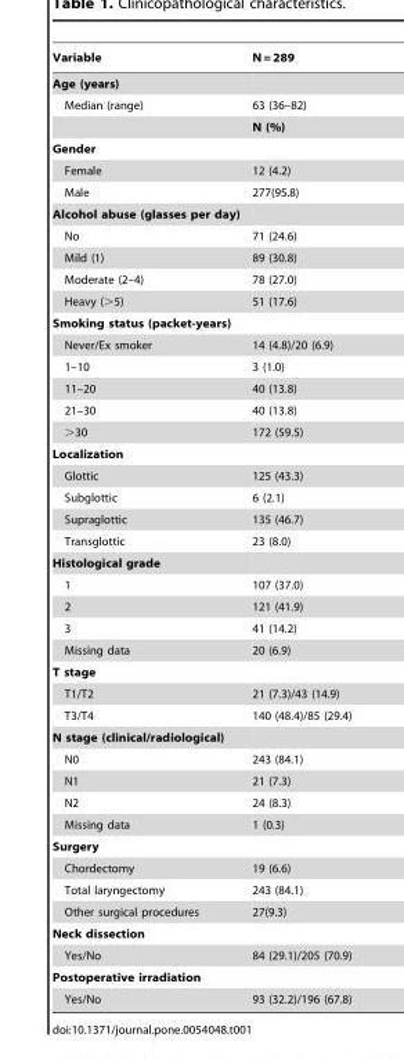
<table><thead><tr><td>Variable</td><td>N = 289</td></tr></thead><tbody><tr><td colspan="2">Age (years)</td></tr><tr><td rowspan="2">Median (range)</td><td>63 (36–82)</td></tr><tr><td>N (%)</td></tr><tr><td colspan="2">Gender</td></tr><tr><td>Female</td><td>12 (4.2)</td></tr><tr><td>Male</td><td>277(95.8)</td></tr><tr><td colspan="2">Alcohol abuse (glasses per day)</td></tr><tr><td>No</td><td>71 (24.6)</td></tr><tr><td>Mild (1)</td><td>89 (30.8)</td></tr><tr><td>Moderate (2–4)</td><td>78 (27.0)</td></tr><tr><td>Heavy (&gt;5)</td><td>51 (17.6)</td></tr><tr><td colspan="2">Smoking status (packet-years)</td></tr><tr><td>Never/Ex smoker</td><td>14 (4.8)/20 (6.9)</td></tr><tr><td>1–10</td><td>3 (1.0)</td></tr><tr><td>11–20</td><td>40 (13.8)</td></tr><tr><td>21–30</td><td>40 (13.8)</td></tr><tr><td>&gt;30</td><td>172 (59.5)</td></tr><tr><td colspan="2">Localization</td></tr><tr><td>Glottic</td><td>125 (43.3)</td></tr><tr><td>Subglottic</td><td>6 (2.1)</td></tr><tr><td>Supraglottic</td><td>135 (46.7)</td></tr><tr><td>Transglottic</td><td>23 (8.0)</td></tr><tr><td colspan="2">Histological grade</td></tr><tr><td>1</td><td>107 (37.0)</td></tr><tr><td>2</td><td>121 (41.9)</td></tr><tr><td>3</td><td>41 (14.2)</td></tr><tr><td>Missing data</td><td>20 (6.9)</td></tr><tr><td colspan="2">T stage</td></tr><tr><td>T1/T2</td><td>21 (7.3)/43 (14.9)</td></tr><tr><td>T3/T4</td><td>140 (48.4)/85 (29.4)</td></tr><tr><td colspan="2">N stage (clinical/radiological)</td></tr><tr><td>N0</td><td>243 (84.1)</td></tr><tr><td>N1</td><td>21 (7.3)</td></tr><tr><td>N2</td><td>24 (8.3)</td></tr><tr><td>Missing data</td><td>1 (0.3)</td></tr><tr><td colspan="2">Surgery</td></tr><tr><td>Chordectomy</td><td>19 (6.6)</td></tr><tr><td>Total laryngectomy</td><td>243 (84.1)</td></tr><tr><td>Other surgical procedures</td><td>27(9.3)</td></tr><tr><td colspan="2">Neck dissection</td></tr><tr><td>Yes/No</td><td>84 (29.1)/205 (70.9)</td></tr><tr><td colspan="2">Postoperative irradiation</td></tr><tr><td>Yes/No</td><td>93 (32.2)/196 (67.8)</td></tr></tbody></table>